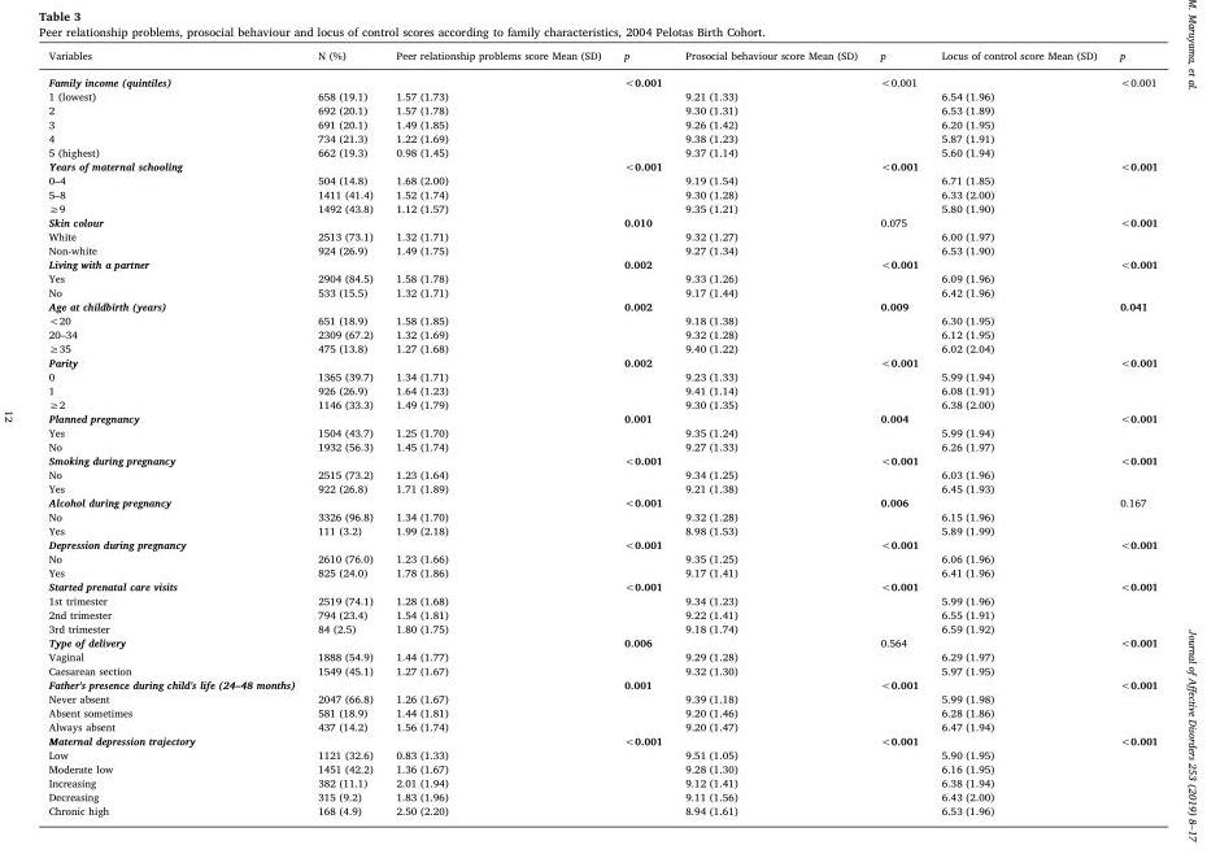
<table><thead><tr><td>Variables</td><td>N (%)</td><td>Peer relationship problems score Mean (SD)</td><td>p</td><td>Prosocial behaviour score Mean (SD)</td><td>p</td><td>Locus of control score Mean (SD)</td><td>p</td></tr></thead><tbody><tr><td>Family income (quintiles)</td><td></td><td></td><td>&lt;0.001</td><td></td><td>&lt;0.001</td><td></td><td>&lt;0.001</td></tr><tr><td>1 (lowest)</td><td>658 (19.1)</td><td>1.57 (1.73)</td><td></td><td>9.21 (1.33)</td><td></td><td>6.54 (1.96)</td><td></td></tr><tr><td>2</td><td>692 (20.1)</td><td>1.57 (1.78)</td><td></td><td>9.30 (1.31)</td><td></td><td>6.53 (1.89)</td><td></td></tr><tr><td>3</td><td>691 (20.1)</td><td>1.49 (1.85)</td><td></td><td>9.26 (1.42)</td><td></td><td>6.20 (1.95)</td><td></td></tr><tr><td>4</td><td>734 (21.3)</td><td>1.22 (1.69)</td><td></td><td>9.38 (1.23)</td><td></td><td>5.87 (1.91)</td><td></td></tr><tr><td>5 (highest)</td><td>662 (19.3)</td><td>0.98 (1.45)</td><td></td><td>9.37 (1.14)</td><td></td><td>5.60 (1.94)</td><td></td></tr><tr><td>Years of maternal schooling</td><td></td><td></td><td>&lt;0.001</td><td></td><td>&lt;0.001</td><td></td><td>&lt;0.001</td></tr><tr><td>0–4</td><td>504 (14.8)</td><td>1.68 (2.00)</td><td></td><td>9.19 (1.54)</td><td></td><td>6.71 (1.85)</td><td></td></tr><tr><td>5–8</td><td>1411 (41.4)</td><td>1.52 (1.74)</td><td></td><td>9.30 (1.28)</td><td></td><td>6.33 (2.00)</td><td></td></tr><tr><td>≥9</td><td>1492 (43.8)</td><td>1.12 (1.57)</td><td></td><td>9.35 (1.21)</td><td></td><td>5.80 (1.90)</td><td></td></tr><tr><td>Skin colour</td><td></td><td></td><td>0.010</td><td></td><td>0.075</td><td></td><td>&lt;0.001</td></tr><tr><td>White</td><td>2513 (73.1)</td><td>1.32 (1.71)</td><td></td><td>9.32 (1.27)</td><td></td><td>6.00 (1.97)</td><td></td></tr><tr><td>Non-white</td><td>924 (26.9)</td><td>1.49 (1.75)</td><td></td><td>9.27 (1.34)</td><td></td><td>6.53 (1.90)</td><td></td></tr><tr><td>Living with a partner</td><td></td><td></td><td>0.002</td><td></td><td>&lt;0.001</td><td></td><td>&lt;0.001</td></tr><tr><td>Yes</td><td>2904 (84.5)</td><td>1.58 (1.78)</td><td></td><td>9.33 (1.26)</td><td></td><td>6.09 (1.96)</td><td></td></tr><tr><td>No</td><td>533 (15.5)</td><td>1.32 (1.71)</td><td></td><td>9.17 (1.44)</td><td></td><td>6.42 (1.96)</td><td></td></tr><tr><td>Age at childbirth (years)</td><td></td><td></td><td>0.002</td><td></td><td>0.009</td><td></td><td>0.041</td></tr><tr><td>&lt;20</td><td>651 (18.9)</td><td>1.58 (1.85)</td><td></td><td>9.18 (1.38)</td><td></td><td>6.30 (1.95)</td><td></td></tr><tr><td>20–34</td><td>2309 (67.2)</td><td>1.32 (1.69)</td><td></td><td>9.32 (1.28)</td><td></td><td>6.12 (1.95)</td><td></td></tr><tr><td>≥35</td><td>475 (13.8)</td><td>1.27 (1.68)</td><td></td><td>9.40 (1.22)</td><td></td><td>6.02 (2.04)</td><td></td></tr><tr><td>Parity</td><td></td><td></td><td>0.002</td><td></td><td>&lt;0.001</td><td></td><td>&lt;0.001</td></tr><tr><td>0</td><td>1365 (39.7)</td><td>1.34 (1.71)</td><td></td><td>9.23 (1.33)</td><td></td><td>5.99 (1.94)</td><td></td></tr><tr><td>1</td><td>926 (26.9)</td><td>1.64 (1.23)</td><td></td><td>9.41 (1.14)</td><td></td><td>6.08 (1.91)</td><td></td></tr><tr><td>≥2</td><td>1146 (33.3)</td><td>1.49 (1.79)</td><td></td><td>9.30 (1.35)</td><td></td><td>6.38 (2.00)</td><td></td></tr><tr><td>Planned pregnancy</td><td></td><td></td><td>0.001</td><td></td><td>0.004</td><td></td><td>&lt;0.001</td></tr><tr><td>Yes</td><td>1504 (43.7)</td><td>1.25 (1.70)</td><td></td><td>9.35 (1.24)</td><td></td><td>5.99 (1.94)</td><td></td></tr><tr><td>No</td><td>1932 (56.3)</td><td>1.45 (1.74)</td><td></td><td>9.27 (1.33)</td><td></td><td>6.26 (1.97)</td><td></td></tr><tr><td>Smoking during pregnancy</td><td></td><td></td><td>&lt;0.001</td><td></td><td>&lt;0.001</td><td></td><td>&lt;0.001</td></tr><tr><td>No</td><td>2515 (73.2)</td><td>1.23 (1.64)</td><td></td><td>9.34 (1.25)</td><td></td><td>6.03 (1.96)</td><td></td></tr><tr><td>Yes</td><td>922 (26.8)</td><td>1.71 (1.89)</td><td></td><td>9.21 (1.38)</td><td></td><td>6.45 (1.93)</td><td></td></tr><tr><td>Alcohol during pregnancy</td><td></td><td></td><td>&lt;0.001</td><td></td><td>0.006</td><td></td><td>0.167</td></tr><tr><td>No</td><td>3326 (96.8)</td><td>1.34 (1.70)</td><td></td><td>9.32 (1.28)</td><td></td><td>6.15 (1.96)</td><td></td></tr><tr><td>Yes</td><td>111 (3.2)</td><td>1.99 (2.18)</td><td></td><td>8.98 (1.53)</td><td></td><td>5.89 (1.99)</td><td></td></tr><tr><td>Depression during pregnancy</td><td></td><td></td><td>&lt;0.001</td><td></td><td>&lt;0.001</td><td></td><td>&lt;0.001</td></tr><tr><td>No</td><td>2610 (76.0)</td><td>1.23 (1.66)</td><td></td><td>9.35 (1.25)</td><td></td><td>6.06 (1.96)</td><td></td></tr><tr><td>Yes</td><td>825 (24.0)</td><td>1.78 (1.86)</td><td></td><td>9.17 (1.41)</td><td></td><td>6.41 (1.96)</td><td></td></tr><tr><td>Started prenatal care visits</td><td></td><td></td><td>&lt;0.001</td><td></td><td>&lt;0.001</td><td></td><td>&lt;0.001</td></tr><tr><td>1st trimester</td><td>2519 (74.1)</td><td>1.28 (1.68)</td><td></td><td>9.34 (1.23)</td><td></td><td>5.99 (1.96)</td><td></td></tr><tr><td>2nd trimester</td><td>794 (23.4)</td><td>1.54 (1.81)</td><td></td><td>9.22 (1.41)</td><td></td><td>6.55 (1.91)</td><td></td></tr><tr><td>3rd trimester</td><td>84 (2.5)</td><td>1.80 (1.75)</td><td></td><td>9.18 (1.74)</td><td></td><td>6.59 (1.92)</td><td></td></tr><tr><td>Type of delivery</td><td></td><td></td><td>0.006</td><td></td><td>0.564</td><td></td><td>&lt;0.001</td></tr><tr><td>Vaginal</td><td>1888 (54.9)</td><td>1.44 (1.77)</td><td></td><td>9.29 (1.28)</td><td></td><td>6.29 (1.97)</td><td></td></tr><tr><td>Caesarean section</td><td>1549 (45.1)</td><td>1.27 (1.67)</td><td></td><td>9.32 (1.30)</td><td></td><td>5.97 (1.95)</td><td></td></tr><tr><td>Father&#x27;s presence during child&#x27;s life (24–48 months)</td><td></td><td></td><td>0.001</td><td></td><td>&lt;0.001</td><td></td><td>&lt;0.001</td></tr><tr><td>Never absent</td><td>2047 (66.8)</td><td>1.26 (1.67)</td><td></td><td>9.39 (1.18)</td><td></td><td>5.99 (1.98)</td><td></td></tr><tr><td>Absent sometimes</td><td>581 (18.9)</td><td>1.44 (1.81)</td><td></td><td>9.20 (1.46)</td><td></td><td>6.28 (1.86)</td><td></td></tr><tr><td>Always absent</td><td>437 (14.2)</td><td>1.56 (1.74)</td><td></td><td>9.20 (1.47)</td><td></td><td>6.47 (1.94)</td><td></td></tr><tr><td>Maternal depression trajectory</td><td></td><td></td><td>&lt;0.001</td><td></td><td>&lt;0.001</td><td></td><td>&lt;0.001</td></tr><tr><td>Low</td><td>1121 (32.6)</td><td>0.83 (1.33)</td><td></td><td>9.51 (1.05)</td><td></td><td>5.90 (1.95)</td><td></td></tr><tr><td>Moderate low</td><td>1451 (42.2)</td><td>1.36 (1.67)</td><td></td><td>9.28 (1.30)</td><td></td><td>6.16 (1.95)</td><td></td></tr><tr><td>Increasing</td><td>382 (11.1)</td><td>2.01 (1.94)</td><td></td><td>9.12 (1.41)</td><td></td><td>6.38 (1.94)</td><td></td></tr><tr><td>Decreasing</td><td>315 (9.2)</td><td>1.83 (1.96)</td><td></td><td>9.11 (1.56)</td><td></td><td>6.43 (2.00)</td><td></td></tr><tr><td>Chronic high</td><td>168 (4.9)</td><td>2.50 (2.20)</td><td></td><td>8.94 (1.61)</td><td></td><td>6.53 (1.96)</td><td></td></tr></tbody></table>